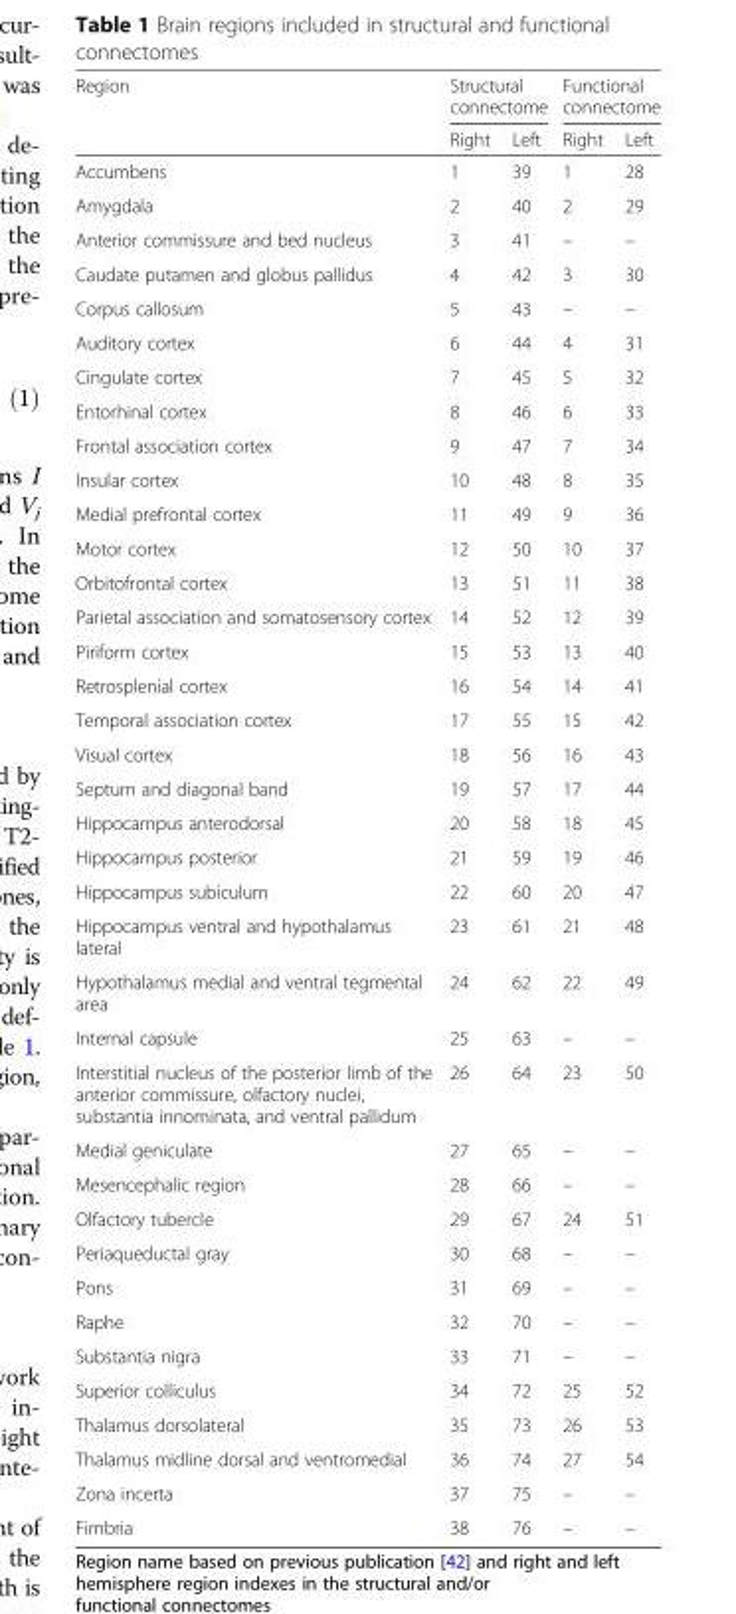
<table><thead><tr><td rowspan="2">Region</td><td colspan="2">Structural connectome</td><td colspan="2">Functional connectome</td></tr><tr><td>Right</td><td>Left</td><td>Right</td><td>Left</td></tr></thead><tbody><tr><td>Accumbens</td><td>1</td><td>39</td><td>1</td><td>28</td></tr><tr><td>Amygdala</td><td>2</td><td>40</td><td>2</td><td>29</td></tr><tr><td>Anterior commissure and bed nucleus</td><td>3</td><td>41</td><td>–</td><td>–</td></tr><tr><td>Caudate putamen and globus pallidus</td><td>4</td><td>42</td><td>3</td><td>30</td></tr><tr><td>Corpus callosum</td><td>5</td><td>43</td><td>–</td><td>–</td></tr><tr><td>Auditory cortex</td><td>6</td><td>44</td><td>4</td><td>31</td></tr><tr><td>Cingulate cortex</td><td>7</td><td>45</td><td>5</td><td>32</td></tr><tr><td>Entorhinal cortex</td><td>8</td><td>46</td><td>6</td><td>33</td></tr><tr><td>Frontal association cortex</td><td>9</td><td>47</td><td>7</td><td>34</td></tr><tr><td>Insular cortex</td><td>10</td><td>48</td><td>8</td><td>35</td></tr><tr><td>Medial prefrontal cortex</td><td>11</td><td>49</td><td>9</td><td>36</td></tr><tr><td>Motor cortex</td><td>12</td><td>50</td><td>10</td><td>37</td></tr><tr><td>Orbitofrontal cortex</td><td>13</td><td>51</td><td>11</td><td>38</td></tr><tr><td>Parietal association and somatosensory cortex</td><td>14</td><td>52</td><td>12</td><td>39</td></tr><tr><td>Piriform cortex</td><td>15</td><td>53</td><td>13</td><td>40</td></tr><tr><td>Retrosplenial cortex</td><td>16</td><td>54</td><td>14</td><td>41</td></tr><tr><td>Temporal association cortex</td><td>17</td><td>55</td><td>15</td><td>42</td></tr><tr><td>Visual cortex</td><td>18</td><td>56</td><td>16</td><td>43</td></tr><tr><td>Septum and diagonal band</td><td>19</td><td>57</td><td>17</td><td>44</td></tr><tr><td>Hippocampus anterodorsal</td><td>20</td><td>58</td><td>18</td><td>45</td></tr><tr><td>Hippocampus posterior</td><td>21</td><td>59</td><td>19</td><td>46</td></tr><tr><td>Hippocampus subiculum</td><td>22</td><td>60</td><td>20</td><td>47</td></tr><tr><td>Hippocampus ventral and hypothalamus lateral</td><td>23</td><td>61</td><td>21</td><td>48</td></tr><tr><td>Hypothalamus medial and ventral tegmental area</td><td>24</td><td>62</td><td>22</td><td>49</td></tr><tr><td>Internal capsule</td><td>25</td><td>63</td><td>–</td><td>–</td></tr><tr><td>Interstitial nucleus of the posterior limb of the anterior commissure, olfactory nuclei, substantia innominata, and ventral pallidum</td><td>26</td><td>64</td><td>23</td><td>50</td></tr><tr><td>Medial geniculate</td><td>27</td><td>65</td><td>–</td><td>–</td></tr><tr><td>Mesencephalic region</td><td>28</td><td>66</td><td>–</td><td>–</td></tr><tr><td>Olfactory tubercle</td><td>29</td><td>67</td><td>24</td><td>51</td></tr><tr><td>Periaqueductal gray</td><td>30</td><td>68</td><td>–</td><td>–</td></tr><tr><td>Pons</td><td>31</td><td>69</td><td>–</td><td>–</td></tr><tr><td>Raphe</td><td>32</td><td>70</td><td>–</td><td>–</td></tr><tr><td>Substantia nigra</td><td>33</td><td>71</td><td>–</td><td>–</td></tr><tr><td>Superior colliculus</td><td>34</td><td>72</td><td>25</td><td>52</td></tr><tr><td>Thalamus dorsolateral</td><td>35</td><td>73</td><td>26</td><td>53</td></tr><tr><td>Thalamus midline dorsal and ventromedial</td><td>36</td><td>74</td><td>27</td><td>54</td></tr><tr><td>Zona incerta</td><td>37</td><td>75</td><td>–</td><td>–</td></tr><tr><td>Fimbria</td><td>38</td><td>76</td><td>–</td><td>–</td></tr></tbody></table>